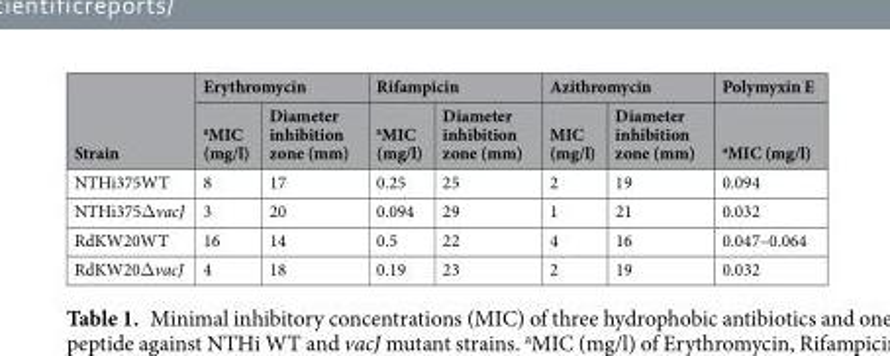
<table><thead><tr><td rowspan="2">Strain</td><td colspan="2">Erythromycin</td><td colspan="2">Rifampicin</td><td colspan="2">Azithromycin</td><td rowspan="2">Polymyxin E <sup>a</sup>MIC (mg/l)</td></tr><tr><td><sup>a</sup>MIC (mg/l)</td><td>Diameter inhibition zone (mm)</td><td><sup>a</sup>MIC (mg/l)</td><td>Diameter inhibition zone (mm)</td><td>MIC (mg/l)</td><td>Diameter inhibition zone (mm)</td></tr></thead><tbody><tr><td>NTHi375WT</td><td>8</td><td>17</td><td>0.25</td><td>25</td><td>2</td><td>19</td><td>0.094</td></tr><tr><td>NTHi375ΔvacJ</td><td>3</td><td>20</td><td>0.094</td><td>29</td><td>1</td><td>21</td><td>0.032</td></tr><tr><td>RdKW20WT</td><td>16</td><td>14</td><td>0.5</td><td>22</td><td>4</td><td>16</td><td>0.047–0.064</td></tr><tr><td>RdKW20ΔvacJ</td><td>4</td><td>18</td><td>0.19</td><td>23</td><td>2</td><td>19</td><td>0.032</td></tr></tbody></table>